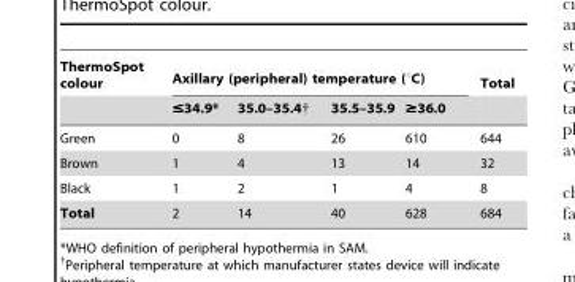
<table><thead><tr><td rowspan="2">ThermoSpot colour</td><td colspan="4">Axillary (peripheral) temperature (°C)</td><td rowspan="2">Total</td></tr><tr><td>≤34.9*</td><td>35.0–35.4†</td><td>35.5–35.9</td><td>≥36.0</td></tr></thead><tbody><tr><td>Green</td><td>0</td><td>8</td><td>26</td><td>610</td><td>644</td></tr><tr><td>Brown</td><td>1</td><td>4</td><td>13</td><td>14</td><td>32</td></tr><tr><td>Black</td><td>1</td><td>2</td><td>1</td><td>4</td><td>8</td></tr><tr><td>Total</td><td>2</td><td>14</td><td>40</td><td>628</td><td>684</td></tr></tbody></table>